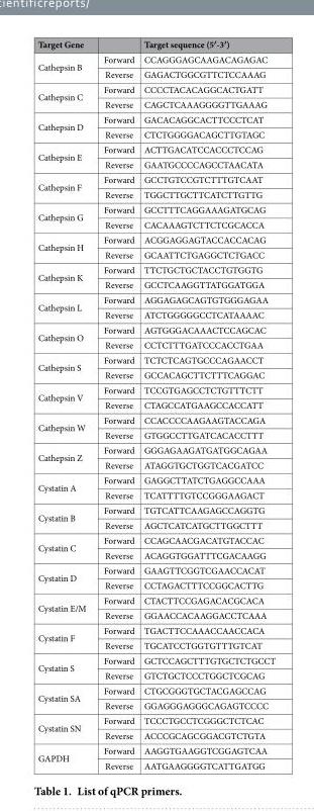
<table><thead><tr><td>Target Gene</td><td></td><td>Target sequence (5′-3′)</td></tr></thead><tbody><tr><td rowspan="2">Cathepsin B</td><td>Forward</td><td>CCAGGGAGCAAGACAGAGAC</td></tr><tr><td>Reverse</td><td>GAGACTGGCGTTCTCCAAAG</td></tr><tr><td rowspan="2">Cathepsin C</td><td>Forward</td><td>CCCCTACACAGGCACTGATT</td></tr><tr><td>Reverse</td><td>CAGCTCAAAGGGGTTGAAAG</td></tr><tr><td rowspan="2">Cathepsin D</td><td>Forward</td><td>GACACAGGCACTTCCCTCAT</td></tr><tr><td>Reverse</td><td>CTCTGGGGACAGCTTGTAGC</td></tr><tr><td rowspan="2">Cathepsin E</td><td>Forward</td><td>ACTTGACATCCACCCTCCAG</td></tr><tr><td>Reverse</td><td>GAATGCCCCAGCCTAACATA</td></tr><tr><td rowspan="2">Cathepsin F</td><td>Forward</td><td>GCCTGTCCGTCTTTGTCAAT</td></tr><tr><td>Reverse</td><td>TGGCTTGCTTCATCTTGTTG</td></tr><tr><td rowspan="2">Cathepsin G</td><td>Forward</td><td>GCCTTTCAGGAAAGATGCAG</td></tr><tr><td>Reverse</td><td>CACAAAGTCTTCTCGCACCA</td></tr><tr><td rowspan="2">Cathepsin H</td><td>Forward</td><td>ACGGAGGAGTACCACCACAG</td></tr><tr><td>Reverse</td><td>GCAATTCTGAGGCTCTGACC</td></tr><tr><td rowspan="2">Cathepsin K</td><td>Forward</td><td>TTCTGCTGCTACCTGTGGTG</td></tr><tr><td>Reverse</td><td>GCCTCAAGGTTATGGATGGA</td></tr><tr><td rowspan="2">Cathepsin L</td><td>Forward</td><td>AGGAGAGCAGTGTGGGAGAA</td></tr><tr><td>Reverse</td><td>ATCTGGGGGCCTCATAAAAC</td></tr><tr><td rowspan="2">Cathepsin O</td><td>Forward</td><td>AGTGGGACAAACTCCAGCAC</td></tr><tr><td>Reverse</td><td>CCTCTTTGATCCCACCTGAA</td></tr><tr><td rowspan="2">Cathepsin S</td><td>Forward</td><td>TCTCTCAGTGCCCAGAACCT</td></tr><tr><td>Reverse</td><td>GCCACAGCTTCTTTCAGGAC</td></tr><tr><td rowspan="2">Cathepsin V</td><td>Forward</td><td>TCCGTGAGCCTCTGTTTCTT</td></tr><tr><td>Reverse</td><td>CTAGCCATGAAGCCACCATT</td></tr><tr><td rowspan="2">Cathepsin W</td><td>Forward</td><td>CCACCCCAAGAAGTACCAGA</td></tr><tr><td>Reverse</td><td>GTGGCCTTGATCACACCTTT</td></tr><tr><td rowspan="2">Cathepsin Z</td><td>Forward</td><td>GGGAGAAGATGATGGCAGAA</td></tr><tr><td>Reverse</td><td>ATAGGTGCTGGTCACGATCC</td></tr><tr><td rowspan="2">Cystatin A</td><td>Forward</td><td>GAGGCTTATCTGAGGCCAAA</td></tr><tr><td>Reverse</td><td>TCATTTTGTCCGGGAAGACT</td></tr><tr><td rowspan="2">Cystatin B</td><td>Forward</td><td>TGTCATTCAAGAGCCAGGTG</td></tr><tr><td>Reverse</td><td>AGCTCATCATGCTTGGCTTT</td></tr><tr><td rowspan="2">Cystatin C</td><td>Forward</td><td>CCAGCAACGACATGTACCAC</td></tr><tr><td>Reverse</td><td>ACAGGTGGATTTCGACAAGG</td></tr><tr><td rowspan="2">Cystatin D</td><td>Forward</td><td>GAAGTTCGGTCGAACCACAT</td></tr><tr><td>Reverse</td><td>CCTAGACTTTCCGGCACTTG</td></tr><tr><td rowspan="2">Cystatin E/M</td><td>Forward</td><td>CTACTTCCGAGACACGCACA</td></tr><tr><td>Reverse</td><td>GGAACCACAAGGACCTCAAA</td></tr><tr><td rowspan="2">Cystatin F</td><td>Forward</td><td>TGACTTCCAAACCAACCACA</td></tr><tr><td>Reverse</td><td>TGCATCCTGGTGTTTGTCAT</td></tr><tr><td rowspan="2">Cystatin S</td><td>Forward</td><td>GCTCCAGCTTTGTGCTCTGCCT</td></tr><tr><td>Reverse</td><td>GTCTGCTCCCTGGCTCGCAG</td></tr><tr><td rowspan="2">Cystatin SA</td><td>Forward</td><td>CTGCGGGTGCTACGAGCCAG</td></tr><tr><td>Reverse</td><td>GGAGGGAGGGCAGAGTCCCC</td></tr><tr><td rowspan="2">Cystatin SN</td><td>Forward</td><td>TCCCTGCCTCGGGCTCTCAC</td></tr><tr><td>Reverse</td><td>ACCCGCAGCGGACGTCTGTA</td></tr><tr><td rowspan="2">GAPDH</td><td>Forward</td><td>AAGGTGAAGGTCGGAGTCAA</td></tr><tr><td>Reverse</td><td>AATGAAGGGGTCATTGATGG</td></tr></tbody></table>